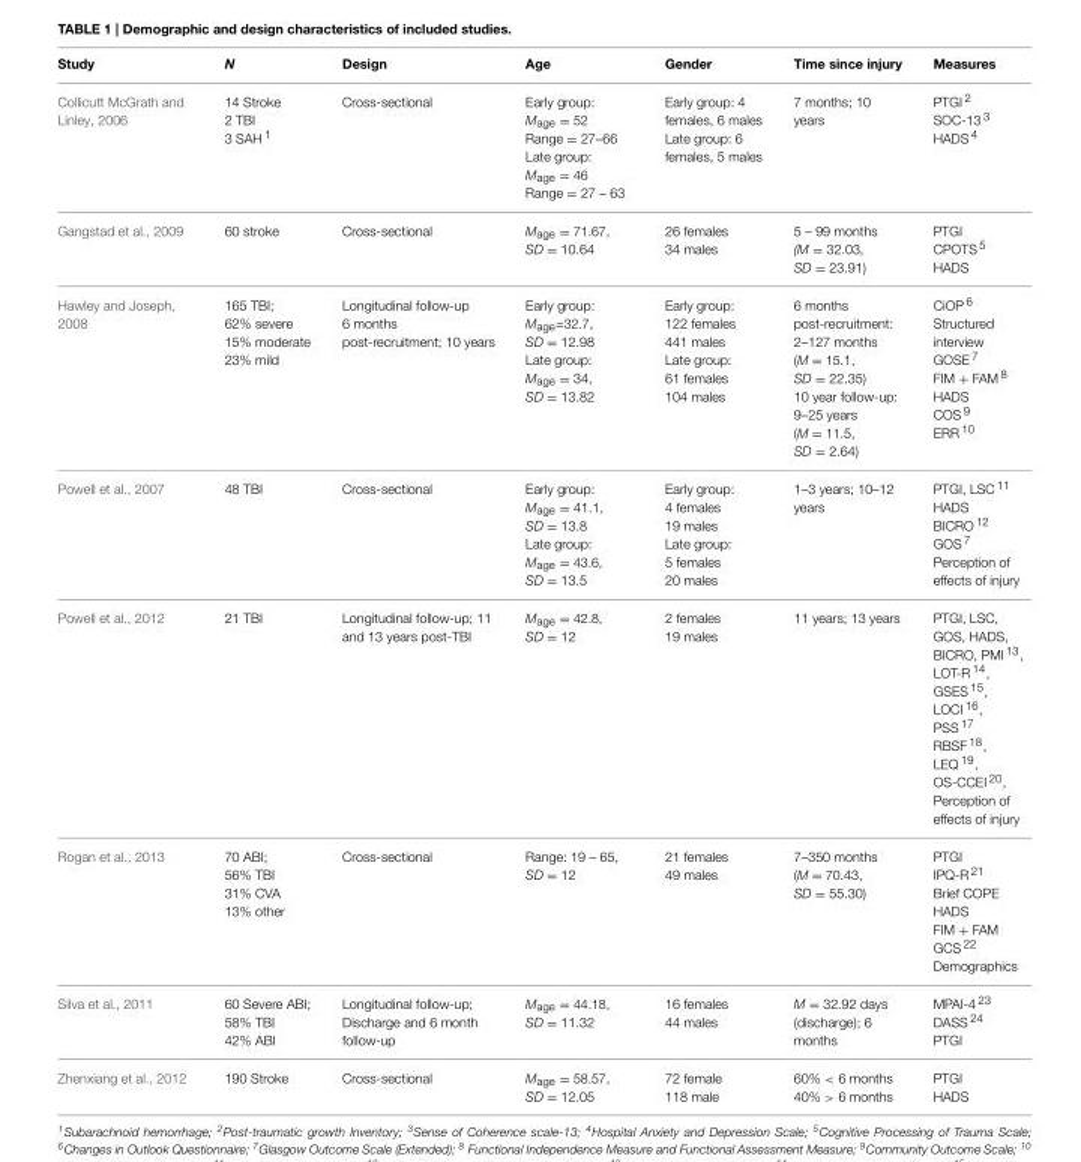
<table><thead><tr><td>Study</td><td>N</td><td>Design</td><td>Age</td><td>Gender</td><td>Time since injury</td><td>Measures</td></tr></thead><tbody><tr><td>Collicutt McGrath and Linley, 2006</td><td>14 Stroke 2 TBI 3 SAH <sup>1</sup></td><td>Cross-sectional</td><td>Early group: M<sub>age</sub> = 52 Range = 27–66 Late group: M<sub>age</sub> = 46 Range = 27 – 63</td><td>Early group: 4 females, 6 males Late group: 6 females, 5 males</td><td>7 months; 10 years</td><td>PTGI <sup>2</sup> SOC-13 <sup>3</sup> HADS <sup>4</sup></td></tr><tr><td>Gangstad et al., 2009</td><td>60 stroke</td><td>Cross-sectional</td><td>M<sub>age</sub> = 71.67, SD = 10.64</td><td>26 females 34 males</td><td>5 – 99 months (M = 32.03, SD = 23.91)</td><td>PTGI CPOTS <sup>5</sup> HADS</td></tr><tr><td>Hawley and Joseph, 2008</td><td>165 TBI; 62% severe 15% moderate 23% mild</td><td>Longitudinal follow-up 6 months post-recruitment; 10 years</td><td>Early group: M<sub>age</sub>=32.7, SD = 12.98 Late group: M<sub>age</sub> = 34, SD = 13.82</td><td>Early group: 122 females 441 males Late group: 61 females 104 males</td><td>6 months post-recruitment: 2–127 months (M = 15.1, SD = 22.35) 10 year follow-up: 9–25 years (M = 11.5, SD = 2.64)</td><td>CiOP <sup>6</sup> Structured interview GOSE <sup>7</sup> FIM + FAM <sup>8</sup> HADS COS <sup>9</sup> ERR <sup>10</sup></td></tr><tr><td>Powell et al., 2007</td><td>48 TBI</td><td>Cross-sectional</td><td>Early group: M<sub>age</sub> = 41.1, SD = 13.8 Late group: M<sub>age</sub> = 43.6, SD = 13.5</td><td>Early group: 4 females 19 males Late group: 5 females 20 males</td><td>1–3 years; 10–12 years</td><td>PTGI, LSC <sup>11</sup> HADS BICRO <sup>12</sup> GOS <sup>7</sup> Perception of effects of injury</td></tr><tr><td>Powell et al., 2012</td><td>21 TBI</td><td>Longitudinal follow-up; 11 and 13 years post-TBI</td><td>M<sub>age</sub> = 42.8, SD = 12</td><td>2 females 19 males</td><td>11 years; 13 years</td><td>PTGI, LSC, GOS, HADS, BICRO, PMI <sup>13</sup>, LOT-R <sup>14</sup>, GSES <sup>15</sup>, LOCI <sup>16</sup>, PSS <sup>17</sup> RBSF <sup>18</sup>, LEQ <sup>19</sup>, OS-CCEI <sup>20</sup>, Perception of effects of injury</td></tr><tr><td>Rogan et al., 2013</td><td>70 ABI; 56% TBI 31% CVA 13% other</td><td>Cross-sectional</td><td>Range: 19 – 65, SD = 12</td><td>21 females 49 males</td><td>7–350 months (M = 70.43, SD = 55.30)</td><td>PTGI IPQ-R <sup>21</sup> Brief COPE HADS FIM + FAM GCS <sup>22</sup> Demographics</td></tr><tr><td>Silva et al., 2011</td><td>60 Severe ABI; 58% TBI 42% ABI</td><td>Longitudinal follow-up; Discharge and 6 month follow-up</td><td>M<sub>age</sub> = 44.18, SD = 11.32</td><td>16 females 44 males</td><td>M = 32.92 days (discharge); 6 months</td><td>MPAI-4 <sup>23</sup> DASS <sup>24</sup> PTGI</td></tr><tr><td>Zhenxiang et al., 2012</td><td>190 Stroke</td><td>Cross-sectional</td><td>M<sub>age</sub> = 58.57, SD = 12.05</td><td>72 female 118 male</td><td>60% &lt; 6 months 40% &gt; 6 months</td><td>PTGI HADS</td></tr></tbody></table>